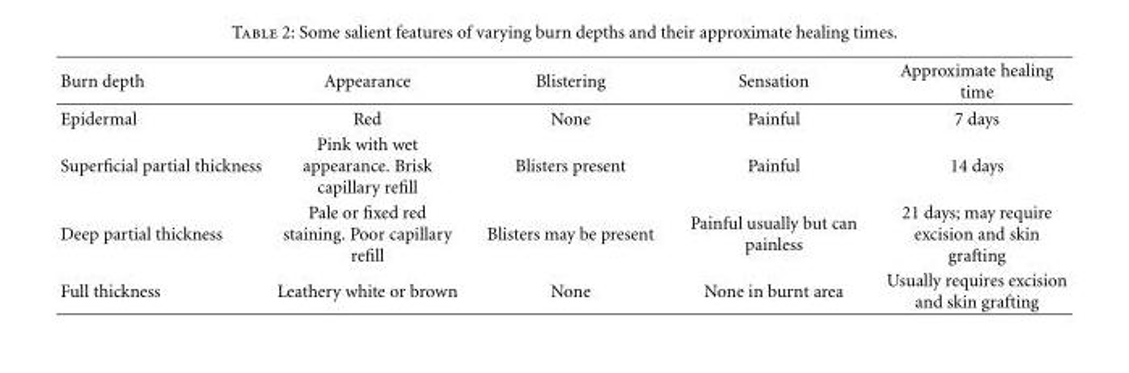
<table><thead><tr><td>Burn depth</td><td>Appearance</td><td>Blistering</td><td>Sensation</td><td>Approximate healing time</td></tr></thead><tbody><tr><td>Epidermal</td><td>Red</td><td>None</td><td>Painful</td><td>7 days</td></tr><tr><td>Superficial partial thickness</td><td>Pink with wet appearance. Brisk capillary refill</td><td>Blisters present</td><td>Painful</td><td>14 days</td></tr><tr><td>Deep partial thickness</td><td>Pale or fixed red staining. Poor capillary refill</td><td>Blisters may be present</td><td>Painful usually but can painless</td><td>21 days; may require excision and skin grafting</td></tr><tr><td>Full thickness</td><td>Leathery white or brown</td><td>None</td><td>None in burnt area</td><td>Usually requires excision and skin grafting</td></tr></tbody></table>